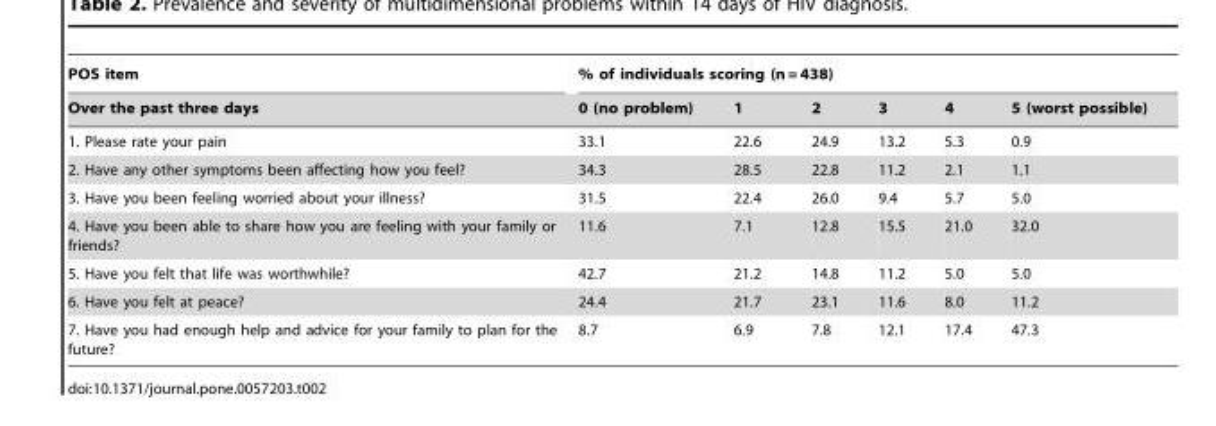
<table><thead><tr><td rowspan="2">POS item Over the past three days</td><td colspan="6">% of individuals scoring (n = 438)</td></tr><tr><td>0 (no problem)</td><td>1</td><td>2</td><td>3</td><td>4</td><td>5 (worst possible)</td></tr></thead><tbody><tr><td>1. Please rate your pain</td><td>33.1</td><td>22.6</td><td>24.9</td><td>13.2</td><td>5.3</td><td>0.9</td></tr><tr><td>2. Have any other symptoms been affecting how you feel?</td><td>34.3</td><td>28.5</td><td>22.8</td><td>11.2</td><td>2.1</td><td>1.1</td></tr><tr><td>3. Have you been feeling worried about your illness?</td><td>31.5</td><td>22.4</td><td>26.0</td><td>9.4</td><td>5.7</td><td>5.0</td></tr><tr><td>4. Have you been able to share how you are feeling with your family or friends?</td><td>11.6</td><td>7.1</td><td>12.8</td><td>15.5</td><td>21.0</td><td>32.0</td></tr><tr><td>5. Have you felt that life was worthwhile?</td><td>42.7</td><td>21.2</td><td>14.8</td><td>11.2</td><td>5.0</td><td>5.0</td></tr><tr><td>6. Have you felt at peace?</td><td>24.4</td><td>21.7</td><td>23.1</td><td>11.6</td><td>8.0</td><td>11.2</td></tr><tr><td>7. Have you had enough help and advice for your family to plan for the future?</td><td>8.7</td><td>6.9</td><td>7.8</td><td>12.1</td><td>17.4</td><td>47.3</td></tr></tbody></table>